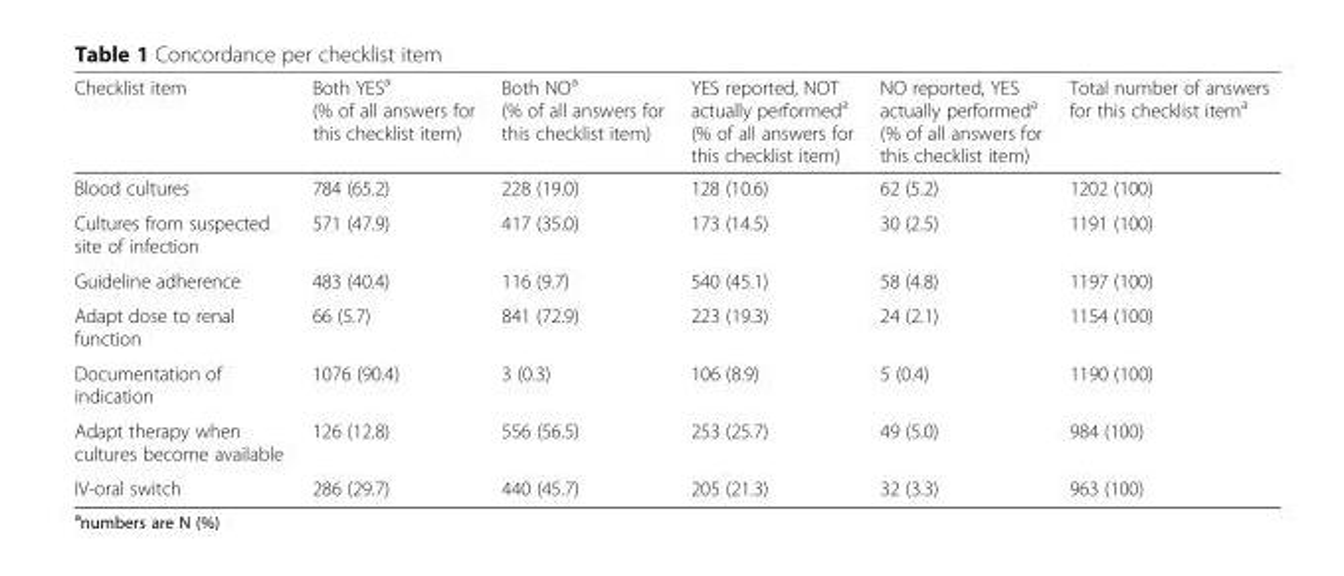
<table><thead><tr><td>Checklist item</td><td>Both YES<sup>a</sup> (% of all answers for this checklist item)</td><td>Both NO<sup>a</sup> (% of all answers for this checklist item)</td><td>YES reported, NOT actually performed<sup>a</sup> (% of all answers for this checklist item)</td><td>NO reported, YES actually performed<sup>a</sup> (% of all answers for this checklist item)</td><td>Total number of answers for this checklist item<sup>a</sup></td></tr></thead><tbody><tr><td>Blood cultures</td><td>784 (65.2)</td><td>228 (19.0)</td><td>128 (10.6)</td><td>62 (5.2)</td><td>1202 (100)</td></tr><tr><td>Cultures from suspected site of infection</td><td>571 (47.9)</td><td>417 (35.0)</td><td>173 (14.5)</td><td>30 (2.5)</td><td>1191 (100)</td></tr><tr><td>Guideline adherence</td><td>483 (40.4)</td><td>116 (9.7)</td><td>540 (45.1)</td><td>58 (4.8)</td><td>1197 (100)</td></tr><tr><td>Adapt dose to renal function</td><td>66 (5.7)</td><td>841 (72.9)</td><td>223 (19.3)</td><td>24 (2.1)</td><td>1154 (100)</td></tr><tr><td>Documentation of indication</td><td>1076 (90.4)</td><td>3 (0.3)</td><td>106 (8.9)</td><td>5 (0.4)</td><td>1190 (100)</td></tr><tr><td>Adapt therapy when cultures become available</td><td>126 (12.8)</td><td>556 (56.5)</td><td>253 (25.7)</td><td>49 (5.0)</td><td>984 (100)</td></tr><tr><td>IV-oral switch</td><td>286 (29.7)</td><td>440 (45.7)</td><td>205 (21.3)</td><td>32 (3.3)</td><td>963 (100)</td></tr></tbody></table>